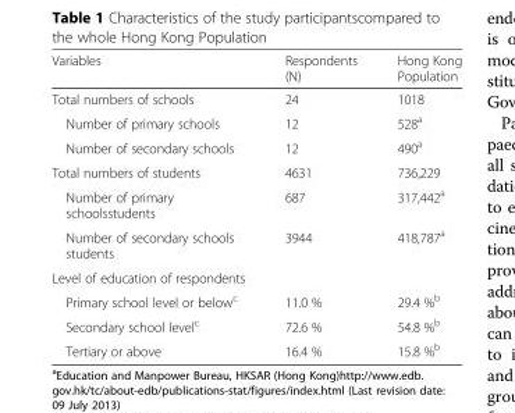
<table><thead><tr><td>Variables</td><td>Respondents (N)</td><td>Hong Kong Population</td></tr></thead><tbody><tr><td>Total numbers of schools</td><td>24</td><td>1018</td></tr><tr><td>Number of primary schools</td><td>12</td><td>528<sup>a</sup></td></tr><tr><td>Number of secondary schools</td><td>12</td><td>490<sup>a</sup></td></tr><tr><td>Total numbers of students</td><td>4631</td><td>736,229</td></tr><tr><td>Number of primary schoolsstudents</td><td>687</td><td>317,442<sup>a</sup></td></tr><tr><td>Number of secondary schools students</td><td>3944</td><td>418,787<sup>a</sup></td></tr><tr><td colspan="3">Level of education of respondents</td></tr><tr><td>Primary school level or below<sup>c</sup></td><td>11.0 %</td><td>29.4 %<sup>b</sup></td></tr><tr><td>Secondary school level<sup>c</sup></td><td>72.6 %</td><td>54.8 %<sup>b</sup></td></tr><tr><td>Tertiary or above</td><td>16.4 %</td><td>15.8 %<sup>b</sup></td></tr></tbody></table>